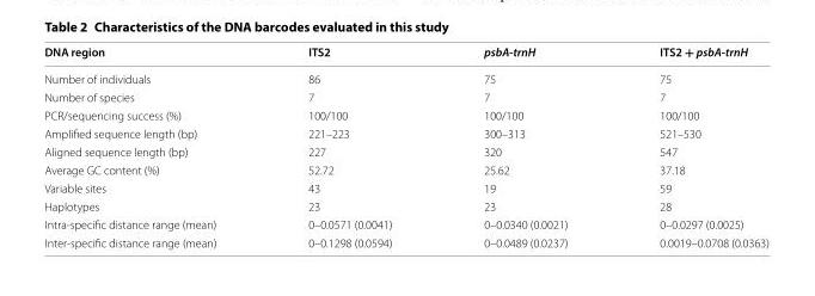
<table><thead><tr><td>DNA region</td><td>ITS2</td><td>psbA-trnH</td><td>ITS2 + psbA-trnH</td></tr></thead><tbody><tr><td>Number of individuals</td><td>86</td><td>75</td><td>75</td></tr><tr><td>Number of species</td><td>7</td><td>7</td><td>7</td></tr><tr><td>PCR/sequencing success (%)</td><td>100/100</td><td>100/100</td><td>100/100</td></tr><tr><td>Amplified sequence length (bp)</td><td>221–223</td><td>300–313</td><td>521–530</td></tr><tr><td>Aligned sequence length (bp)</td><td>227</td><td>320</td><td>547</td></tr><tr><td>Average GC content (%)</td><td>52.72</td><td>25.62</td><td>37.18</td></tr><tr><td>Variable sites</td><td>43</td><td>19</td><td>59</td></tr><tr><td>Haplotypes</td><td>23</td><td>23</td><td>28</td></tr><tr><td>Intra-specific distance range (mean)</td><td>0–0.0571 (0.0041)</td><td>0–0.0340 (0.0021)</td><td>0–0.0297 (0.0025)</td></tr><tr><td>Inter-specific distance range (mean)</td><td>0–0.1298 (0.0594)</td><td>0–0.0489 (0.0237)</td><td>0.0019–0.0708 (0.0363)</td></tr></tbody></table>